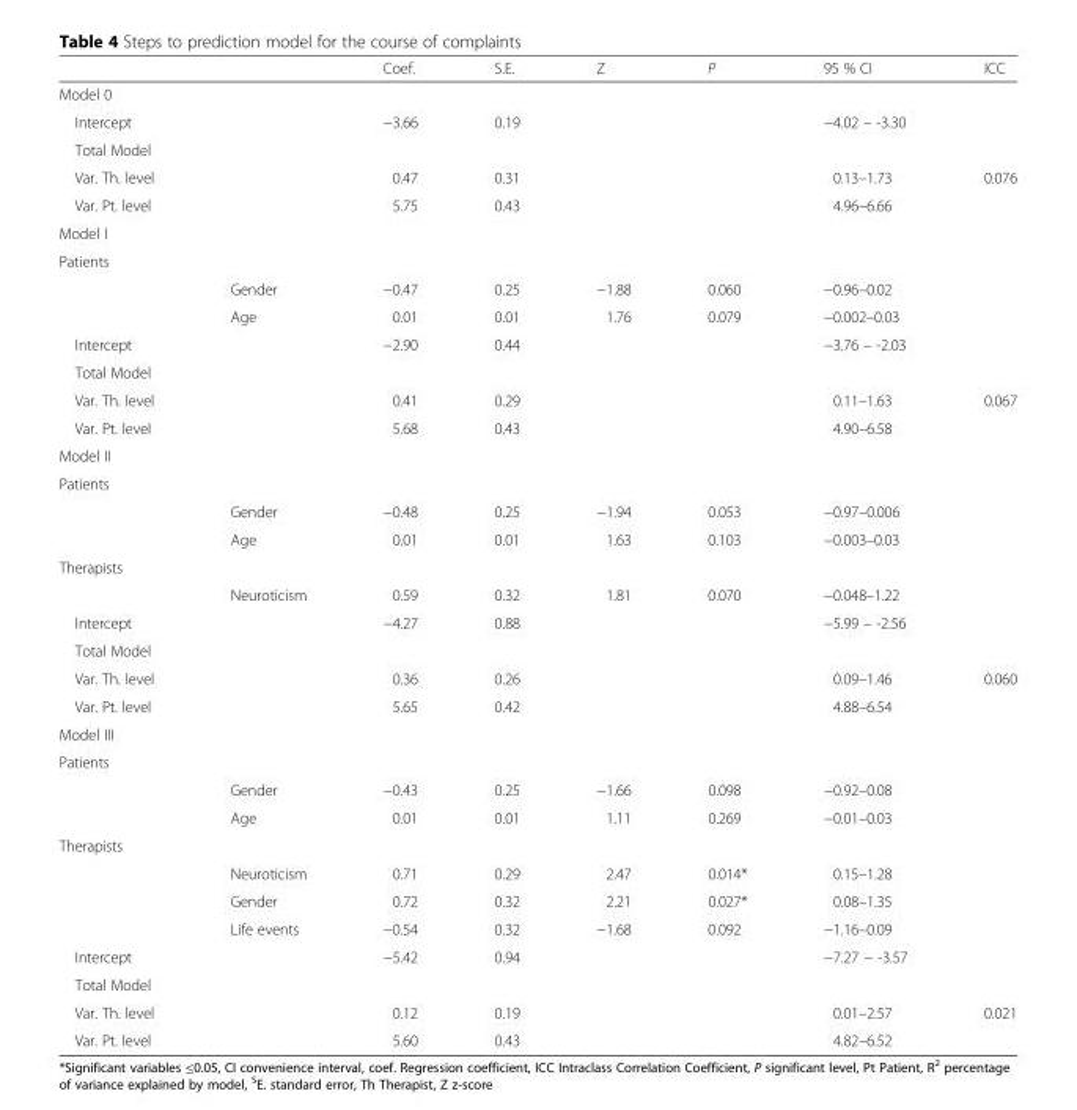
<table><thead><tr><td></td><td></td><td>Coef.</td><td>S.E.</td><td>Z</td><td>P</td><td>95 % CI</td><td>ICC</td></tr></thead><tbody><tr><td colspan="8">Model 0</td></tr><tr><td>Intercept</td><td></td><td>−3.66</td><td>0.19</td><td></td><td></td><td>−4.02 – -3.30</td><td></td></tr><tr><td colspan="8">Total Model</td></tr><tr><td>Var. Th. level</td><td></td><td>0.47</td><td>0.31</td><td></td><td></td><td>0.13–1.73</td><td>0.076</td></tr><tr><td>Var. Pt. level</td><td></td><td>5.75</td><td>0.43</td><td></td><td></td><td>4.96–6.66</td><td></td></tr><tr><td colspan="8">Model I</td></tr><tr><td colspan="8">Patients</td></tr><tr><td></td><td>Gender</td><td>−0.47</td><td>0.25</td><td>−1.88</td><td>0.060</td><td>−0.96–0.02</td><td></td></tr><tr><td></td><td>Age</td><td>0.01</td><td>0.01</td><td>1.76</td><td>0.079</td><td>−0.002–0.03</td><td></td></tr><tr><td>Intercept</td><td></td><td>−2.90</td><td>0.44</td><td></td><td></td><td>−3.76 – -2.03</td><td></td></tr><tr><td colspan="8">Total Model</td></tr><tr><td>Var. Th. level</td><td></td><td>0.41</td><td>0.29</td><td></td><td></td><td>0.11–1.63</td><td>0.067</td></tr><tr><td>Var. Pt. level</td><td></td><td>5.68</td><td>0.43</td><td></td><td></td><td>4.90–6.58</td><td></td></tr><tr><td colspan="8">Model II</td></tr><tr><td colspan="8">Patients</td></tr><tr><td></td><td>Gender</td><td>−0.48</td><td>0.25</td><td>−1.94</td><td>0.053</td><td>−0.97–0.006</td><td></td></tr><tr><td></td><td>Age</td><td>0.01</td><td>0.01</td><td>1.63</td><td>0.103</td><td>−0.003–0.03</td><td></td></tr><tr><td colspan="8">Therapists</td></tr><tr><td></td><td>Neuroticism</td><td>0.59</td><td>0.32</td><td>1.81</td><td>0.070</td><td>−0.048–1.22</td><td></td></tr><tr><td>Intercept</td><td></td><td>−4.27</td><td>0.88</td><td></td><td></td><td>−5.99 – -2.56</td><td></td></tr><tr><td colspan="8">Total Model</td></tr><tr><td colspan="2">Var. Th. level</td><td>0.36</td><td>0.26</td><td></td><td></td><td>0.09–1.46</td><td>0.060</td></tr><tr><td colspan="2">Var. Pt. level</td><td>5.65</td><td>0.42</td><td></td><td></td><td>4.88–6.54</td><td></td></tr><tr><td colspan="8">Model III</td></tr><tr><td colspan="8">Patients</td></tr><tr><td></td><td>Gender</td><td>−0.43</td><td>0.25</td><td>−1.66</td><td>0.098</td><td>−0.92–0.08</td><td></td></tr><tr><td></td><td>Age</td><td>0.01</td><td>0.01</td><td>1.11</td><td>0.269</td><td>−0.01–0.03</td><td></td></tr><tr><td colspan="8">Therapists</td></tr><tr><td></td><td>Neuroticism</td><td>0.71</td><td>0.29</td><td>2.47</td><td>0.014*</td><td>0.15–1.28</td><td></td></tr><tr><td></td><td>Gender</td><td>0.72</td><td>0.32</td><td>2.21</td><td>0.027*</td><td>0.08–1.35</td><td></td></tr><tr><td></td><td>Life events</td><td>−0.54</td><td>0.32</td><td>−1.68</td><td>0.092</td><td>−1.16–0.09</td><td></td></tr><tr><td>Intercept</td><td></td><td>−5.42</td><td>0.94</td><td></td><td></td><td>−7.27 − -3.57</td><td></td></tr><tr><td colspan="8">Total Model</td></tr><tr><td>Var. Th. level</td><td></td><td>0.12</td><td>0.19</td><td></td><td></td><td>0.01–2.57</td><td>0.021</td></tr><tr><td>Var. Pt. level</td><td></td><td>5.60</td><td>0.43</td><td></td><td></td><td>4.82–6.52</td><td></td></tr></tbody></table>